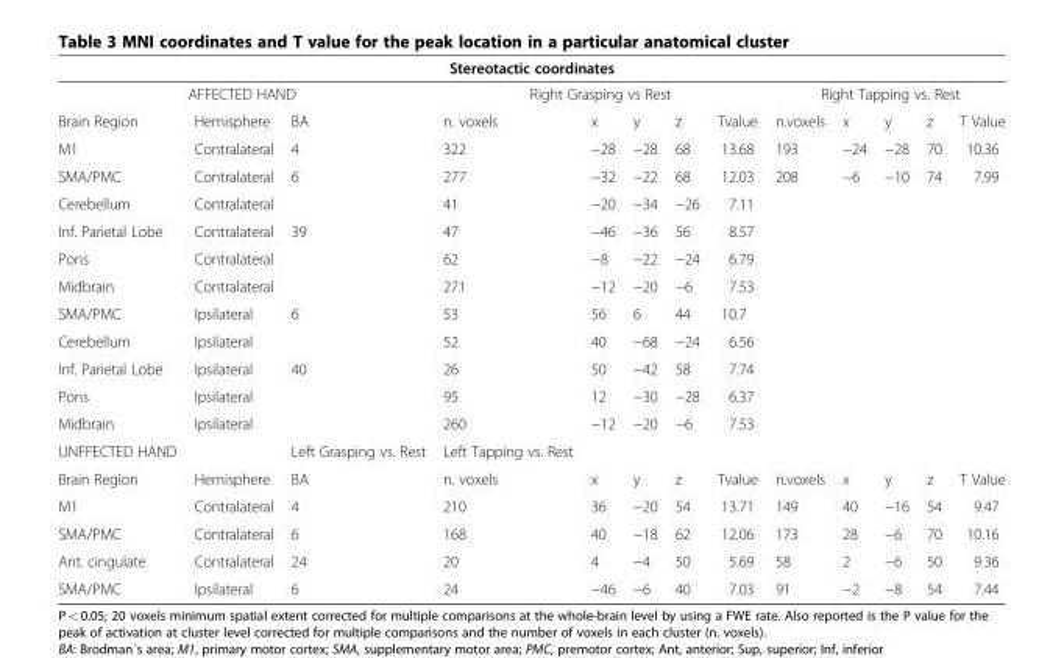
<table><thead><tr><td colspan="13">Stereotactic coordinates</td></tr><tr><td colspan="3">AFFECTED HAND</td><td colspan="5">Right Grasping vs Rest</td><td colspan="5">Right Tapping vs. Rest</td></tr><tr><td>Brain Region</td><td>Hemisphere</td><td>BA</td><td>n. voxels</td><td>x</td><td>y</td><td>z</td><td>Tvalue</td><td>n.voxels</td><td>x</td><td>y</td><td>z</td><td>T Value</td></tr></thead><tbody><tr><td>M1</td><td>Contralateral</td><td>4</td><td>322</td><td>−28</td><td>−28</td><td>68</td><td>13.68</td><td>193</td><td>−24</td><td>−28</td><td>70</td><td>10.36</td></tr><tr><td>SMA/PMC</td><td>Contralateral</td><td>6</td><td>277</td><td>−32</td><td>−22</td><td>68</td><td>12.03</td><td>208</td><td>−6</td><td>−10</td><td>74</td><td>7.99</td></tr><tr><td>Cerebellum</td><td>Contralateral</td><td></td><td>41</td><td>−20</td><td>−34</td><td>−26</td><td>7.11</td><td></td><td></td><td></td><td></td><td></td></tr><tr><td>Inf. Parietal Lobe</td><td>Contralateral</td><td>39</td><td>47</td><td>−46</td><td>−36</td><td>56</td><td>8.57</td><td></td><td></td><td></td><td></td><td></td></tr><tr><td>Pons</td><td>Contralateral</td><td></td><td>62</td><td>−8</td><td>−22</td><td>−24</td><td>6.79</td><td></td><td></td><td></td><td></td><td></td></tr><tr><td>Midbrain</td><td>Contralateral</td><td></td><td>271</td><td>−12</td><td>−20</td><td>−6</td><td>7.53</td><td></td><td></td><td></td><td></td><td></td></tr><tr><td>SMA/PMC</td><td>Ipsilateral</td><td>6</td><td>53</td><td>56</td><td>6</td><td>44</td><td>10.7</td><td></td><td></td><td></td><td></td><td></td></tr><tr><td>Cerebellum</td><td>Ipsilateral</td><td></td><td>52</td><td>40</td><td>−68</td><td>−24</td><td>6.56</td><td></td><td></td><td></td><td></td><td></td></tr><tr><td>Inf. Parietal Lobe</td><td>Ipsilateral</td><td>40</td><td>26</td><td>50</td><td>−42</td><td>58</td><td>7.74</td><td></td><td></td><td></td><td></td><td></td></tr><tr><td>Pons</td><td>Ipsilateral</td><td></td><td>95</td><td>12</td><td>−30</td><td>−28</td><td>6.37</td><td></td><td></td><td></td><td></td><td></td></tr><tr><td>Midbrain</td><td>Ipsilateral</td><td></td><td>260</td><td>−12</td><td>−20</td><td>−6</td><td>7.53</td><td></td><td></td><td></td><td></td><td></td></tr><tr><td>UNFFECTED HAND</td><td></td><td>Left Grasping vs. Rest</td><td>Left Tapping vs. Rest</td><td></td><td></td><td></td><td></td><td></td><td></td><td></td><td></td><td></td></tr><tr><td>Brain Region</td><td>Hemisphere</td><td>BA</td><td>n. voxels</td><td>x</td><td>y</td><td>z</td><td>Tvalue</td><td>n.voxels</td><td>x</td><td>y</td><td>z</td><td>T Value</td></tr><tr><td>M1</td><td>Contralateral</td><td>4</td><td>210</td><td>36</td><td>−20</td><td>54</td><td>13.71</td><td>149</td><td>40</td><td>−16</td><td>54</td><td>9.47</td></tr><tr><td>SMA/PMC</td><td>Contralateral</td><td>6</td><td>168</td><td>40</td><td>−18</td><td>62</td><td>12.06</td><td>173</td><td>28</td><td>−6</td><td>70</td><td>10.16</td></tr><tr><td>Ant. cingulate</td><td>Contralateral</td><td>24</td><td>20</td><td>4</td><td>−4</td><td>50</td><td>5.69</td><td>58</td><td>2</td><td>−6</td><td>50</td><td>9.36</td></tr><tr><td>SMA/PMC</td><td>Ipsilateral</td><td>6</td><td>24</td><td>−46</td><td>−6</td><td>40</td><td>7.03</td><td>91</td><td>−2</td><td>−8</td><td>54</td><td>7.44</td></tr></tbody></table>